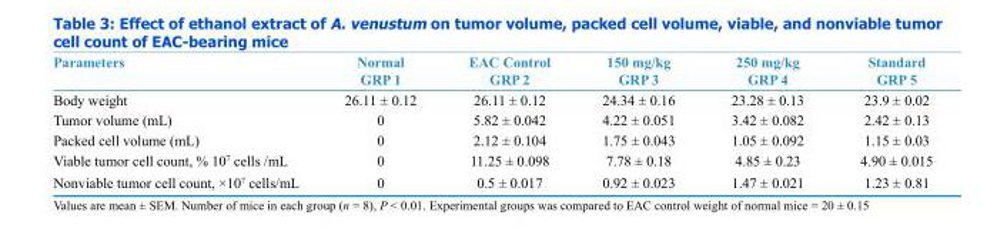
<table><thead><tr><td>Parameters</td><td>Normal GRP 1</td><td>EAC Control GRP 2</td><td>150 mg/kg GRP 3</td><td>250 mg/kg GRP 4</td><td>Standard GRP 5</td></tr></thead><tbody><tr><td>Body weight</td><td>26.11 ± 0.12</td><td>26.11 ± 0.12</td><td>24.34 ± 0.16</td><td>23.28 ± 0.13</td><td>23.9 ± 0.02</td></tr><tr><td>Tumor volume (mL)</td><td>0</td><td>5.82 ± 0.042</td><td>4.22 ± 0.051</td><td>3.42 ± 0.082</td><td>2.42 ± 0.13</td></tr><tr><td>Packed cell volume (mL)</td><td>0</td><td>2.12 ± 0.104</td><td>1.75 ± 0.043</td><td>1.05 ± 0.092</td><td>1.15 ± 0.03</td></tr><tr><td>Viable tumor cell count, % 10<sup>7</sup> cells /mL</td><td>0</td><td>11.25 ± 0.098</td><td>7.78 ± 0.18</td><td>4.85 ± 0.23</td><td>4.90 ± 0.015</td></tr><tr><td>Nonviable tumor cell count, ×10<sup>7</sup> cells/mL</td><td>0</td><td>0.5 ± 0.017</td><td>0.92 ± 0.023</td><td>1.47 ± 0.021</td><td>1.23 ± 0.81</td></tr></tbody></table>